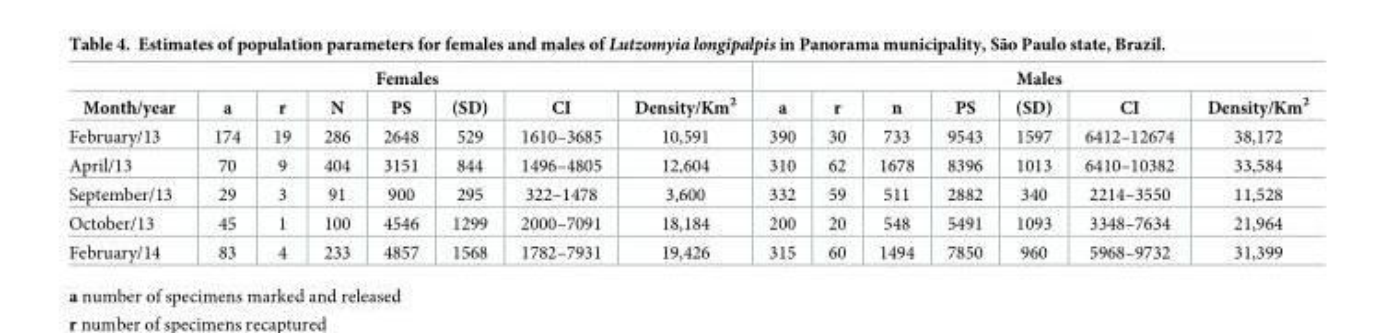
<table><thead><tr><td colspan="8">Females</td><td colspan="7">Males</td></tr><tr><td>Month/year</td><td>a</td><td>r</td><td>N</td><td>PS</td><td>(SD)</td><td>CI</td><td>Density/Km<sup>2</sup></td><td>a</td><td>r</td><td>n</td><td>PS</td><td>(SD)</td><td>CI</td><td>Density/Km<sup>2</sup></td></tr></thead><tbody><tr><td>February/13</td><td>174</td><td>19</td><td>286</td><td>2648</td><td>529</td><td>1610–3685</td><td>10,591</td><td>390</td><td>30</td><td>733</td><td>9543</td><td>1597</td><td>6412–12674</td><td>38,172</td></tr><tr><td>April/13</td><td>70</td><td>9</td><td>404</td><td>3151</td><td>844</td><td>1496–4805</td><td>12,604</td><td>310</td><td>62</td><td>1678</td><td>8396</td><td>1013</td><td>6410–10382</td><td>33,584</td></tr><tr><td>September/13</td><td>29</td><td>3</td><td>91</td><td>900</td><td>295</td><td>322–1478</td><td>3,600</td><td>332</td><td>59</td><td>511</td><td>2882</td><td>340</td><td>2214–3550</td><td>11,528</td></tr><tr><td>October/13</td><td>45</td><td>1</td><td>100</td><td>4546</td><td>1299</td><td>2000–7091</td><td>18,184</td><td>200</td><td>20</td><td>548</td><td>5491</td><td>1093</td><td>3348–7634</td><td>21,964</td></tr><tr><td>February/14</td><td>83</td><td>4</td><td>233</td><td>4857</td><td>1568</td><td>1782–7931</td><td>19,426</td><td>315</td><td>60</td><td>1494</td><td>7850</td><td>960</td><td>5968–9732</td><td>31,399</td></tr></tbody></table>